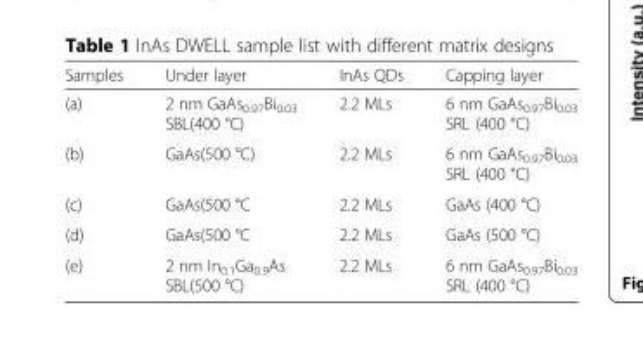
<table><thead><tr><td>Samples</td><td>Under layer</td><td>InAs QDs</td><td>Capping layer</td></tr></thead><tbody><tr><td>(a)</td><td>2 nm GaAs<sub>0.97</sub>Bi<sub>0.03</sub> SBL(400 °C)</td><td>2.2 MLs</td><td>6 nm GaAs<sub>0.97</sub>Bi<sub>0.03</sub> SRL (400 °C)</td></tr><tr><td>(b)</td><td>GaAs(500 °C)</td><td>2.2 MLs</td><td>6 nm GaAs<sub>0.97</sub>Bi<sub>0.03</sub> SRL (400 °C)</td></tr><tr><td>(c)</td><td>GaAs(500 °C</td><td>2.2 MLs</td><td>GaAs (400 °C)</td></tr><tr><td>(d)</td><td>GaAs(500 °C</td><td>2.2 MLs</td><td>GaAs (500 °C)</td></tr><tr><td>(e)</td><td>2 nm In<sub>0.1</sub>Ga<sub>0.9</sub>As SBL(500 °C)</td><td>2.2 MLs</td><td>6 nm GaAs<sub>0.97</sub>Bi<sub>0.03</sub> SRL (400 °C)</td></tr></tbody></table>